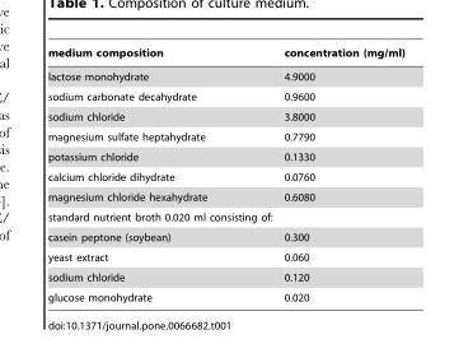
<table><thead><tr><td>medium composition</td><td>concentration (mg/ml)</td></tr></thead><tbody><tr><td>lactose monohydrate</td><td>4.9000</td></tr><tr><td>sodium carbonate decahydrate</td><td>0.9600</td></tr><tr><td>sodium chloride</td><td>3.8000</td></tr><tr><td>magnesium sulfate heptahydrate</td><td>0.7790</td></tr><tr><td>potassium chloride</td><td>0.1330</td></tr><tr><td>calcium chloride dihydrate</td><td>0.0760</td></tr><tr><td>magnesium chloride hexahydrate</td><td>0.6080</td></tr><tr><td colspan="2">standard nutrient broth 0.020 ml consisting of:</td></tr><tr><td>casein peptone (soybean)</td><td>0.300</td></tr><tr><td>yeast extract</td><td>0.060</td></tr><tr><td>sodium chloride</td><td>0.120</td></tr><tr><td>glucose monohydrate</td><td>0.020</td></tr></tbody></table>